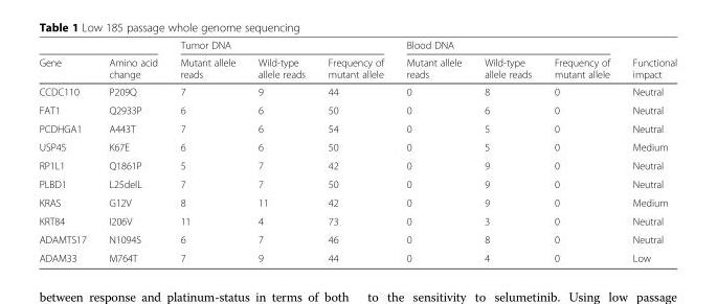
<table><thead><tr><td rowspan="2">Gene</td><td rowspan="2">Amino acid change</td><td colspan="3">Tumor DNA</td><td colspan="3">Blood DNA</td><td rowspan="2">Functional impact</td></tr><tr><td>Mutant allele reads</td><td>Wild-type allele reads</td><td>Frequency of mutant allele</td><td>Mutant allele reads</td><td>Wild-type allele reads</td><td>Frequency of mutant allele</td></tr></thead><tbody><tr><td>CCDC110</td><td>P209Q</td><td>7</td><td>9</td><td>44</td><td>0</td><td>8</td><td>0</td><td>Neutral</td></tr><tr><td>FAT1</td><td>Q2933P</td><td>6</td><td>6</td><td>50</td><td>0</td><td>6</td><td>0</td><td>Neutral</td></tr><tr><td>PCDHGA1</td><td>A443T</td><td>7</td><td>6</td><td>54</td><td>0</td><td>5</td><td>0</td><td>Neutral</td></tr><tr><td>USP45</td><td>K67E</td><td>6</td><td>6</td><td>50</td><td>0</td><td>5</td><td>0</td><td>Medium</td></tr><tr><td>RP1L1</td><td>Q1861P</td><td>5</td><td>7</td><td>42</td><td>0</td><td>9</td><td>0</td><td>Neutral</td></tr><tr><td>PLBD1</td><td>L25delL</td><td>7</td><td>7</td><td>50</td><td>0</td><td>9</td><td>0</td><td>Neutral</td></tr><tr><td>KRAS</td><td>G12V</td><td>8</td><td>11</td><td>42</td><td>0</td><td>9</td><td>0</td><td>Medium</td></tr><tr><td>KRT84</td><td>I206V</td><td>11</td><td>4</td><td>73</td><td>0</td><td>3</td><td>0</td><td>Neutral</td></tr><tr><td>ADAMTS17</td><td>N1094S</td><td>6</td><td>7</td><td>46</td><td>0</td><td>8</td><td>0</td><td>Neutral</td></tr><tr><td>ADAM33</td><td>M764T</td><td>7</td><td>9</td><td>44</td><td>0</td><td>4</td><td>0</td><td>Low</td></tr></tbody></table>